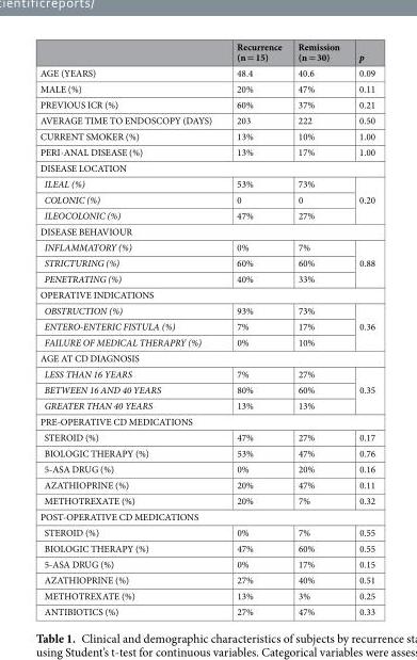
<table><thead><tr><td></td><td>Recurrence (n = 15)</td><td>Remission (n = 30)</td><td>p</td></tr></thead><tbody><tr><td>AGE (YEARS)</td><td>48.4</td><td>40.6</td><td>0.09</td></tr><tr><td>MALE (%)</td><td>20%</td><td>47%</td><td>0.11</td></tr><tr><td>PREVIOUS ICR (%)</td><td>60%</td><td>37%</td><td>0.21</td></tr><tr><td>AVERAGE TIME TO ENDOSCOPY (DAYS)</td><td>203</td><td>222</td><td>0.50</td></tr><tr><td>CURRENT SMOKER (%)</td><td>13%</td><td>10%</td><td>1.00</td></tr><tr><td>PERI-ANAL DISEASE (%)</td><td>13%</td><td>17%</td><td>1.00</td></tr><tr><td colspan="4">DISEASE LOCATION</td></tr><tr><td>ILEAL (%)</td><td>53%</td><td>73%</td><td rowspan="3">0.20</td></tr><tr><td>COLONIC (%)</td><td>0</td><td>0</td></tr><tr><td>ILEOCOLONIC (%)</td><td>47%</td><td>27%</td></tr><tr><td colspan="4">DISEASE BEHAVIOUR</td></tr><tr><td>INFLAMMATORY (%)</td><td>0%</td><td>7%</td><td rowspan="3">0.88</td></tr><tr><td>STRICTURING (%)</td><td>60%</td><td>60%</td></tr><tr><td>PENETRATING (%)</td><td>40%</td><td>33%</td></tr><tr><td colspan="4">OPERATIVE INDICATIONS</td></tr><tr><td>OBSTRUCTION (%)</td><td>93%</td><td>73%</td><td rowspan="3">0.36</td></tr><tr><td>ENTERO-ENTERIC FISTULA (%)</td><td>7%</td><td>17%</td></tr><tr><td>FAILURE OF MEDICAL THERAPRY (%)</td><td>0%</td><td>10%</td></tr><tr><td colspan="4">AGE AT CD DIAGNOSIS</td></tr><tr><td>LESS THAN 16 YEARS</td><td>7%</td><td>27%</td><td rowspan="3">0.35</td></tr><tr><td>BETWEEN 16 AND 40 YEARS</td><td>80%</td><td>60%</td></tr><tr><td>GREATER THAN 40 YEARS</td><td>13%</td><td>13%</td></tr><tr><td colspan="4">PRE-OPERATIVE CD MEDICATIONS</td></tr><tr><td>STEROID (%)</td><td>47%</td><td>27%</td><td>0.17</td></tr><tr><td>BIOLOGIC THERAPY (%)</td><td>53%</td><td>47%</td><td>0.76</td></tr><tr><td>5-ASA DRUG (%)</td><td>0%</td><td>20%</td><td>0.16</td></tr><tr><td>AZATHIOPRINE (%)</td><td>20%</td><td>47%</td><td>0.11</td></tr><tr><td>METHOTREXATE (%)</td><td>20%</td><td>7%</td><td>0.32</td></tr><tr><td colspan="4">POST-OPERATIVE CD MEDICATIONS</td></tr><tr><td>STEROID (%)</td><td>0%</td><td>7%</td><td>0.55</td></tr><tr><td>BIOLOGIC THERAPY (%)</td><td>47%</td><td>60%</td><td>0.55</td></tr><tr><td>5-ASA DRUG (%)</td><td>0%</td><td>17%</td><td>0.15</td></tr><tr><td>AZATHIOPRINE (%)</td><td>27%</td><td>40%</td><td>0.51</td></tr><tr><td>METHOTREXATE (%)</td><td>13%</td><td>3%</td><td>0.25</td></tr><tr><td>ANTIBIOTICS (%)</td><td>27%</td><td>47%</td><td>0.33</td></tr></tbody></table>